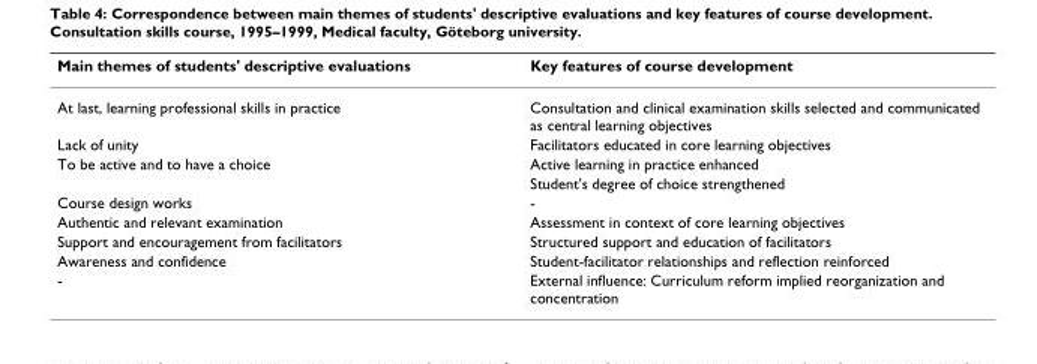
<table><thead><tr><td>Main themes of students&#x27; descriptive evaluations</td><td>Key features of course development</td></tr></thead><tbody><tr><td>At last, learning professional skills in practice</td><td>Consultation and clinical examination skills selected and communicated as central learning objectives</td></tr><tr><td>Lack of unity</td><td>Facilitators educated in core learning objectives</td></tr><tr><td rowspan="2">To be active and to have a choice</td><td>Active learning in practice enhanced</td></tr><tr><td>Student&#x27;s degree of choice strengthened</td></tr><tr><td>Course design works</td><td>-</td></tr><tr><td>Authentic and relevant examination</td><td>Assessment in context of core learning objectives</td></tr><tr><td>Support and encouragement from facilitators</td><td>Structured support and education of facilitators</td></tr><tr><td>Awareness and confidence</td><td>Student-facilitator relationships and reflection reinforced</td></tr><tr><td>-</td><td>External influence: Curriculum reform implied reorganization and concentration</td></tr></tbody></table>